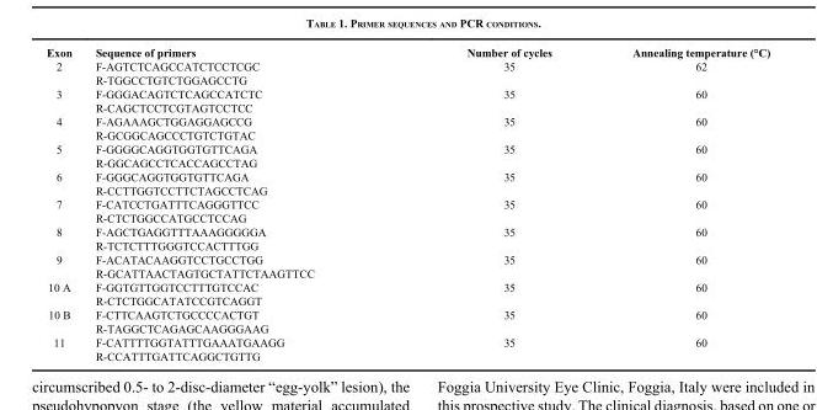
<table><thead><tr><td>Exon</td><td>Sequence of primers</td><td>Number of cycles</td><td>Annealing temperature (°C)</td></tr></thead><tbody><tr><td rowspan="2">2</td><td>F-AGTCTCAGCCATCTCCTCGC</td><td rowspan="2">35</td><td rowspan="2">62</td></tr><tr><td>R-TGGCCTGTCTGGAGCCTG</td></tr><tr><td rowspan="2">3</td><td>F-GGGACAGTCTCAGCCATCTC</td><td rowspan="2">35</td><td rowspan="2">60</td></tr><tr><td>R-CAGCTCCTCGTAGTCCTCC</td></tr><tr><td rowspan="2">4</td><td>F-AGAAAGCTGGAGGAGCCG</td><td rowspan="2">35</td><td rowspan="2">60</td></tr><tr><td>R-GCGGCAGCCCTGTCTGTAC</td></tr><tr><td rowspan="2">5</td><td>F-GGGGCAGGTGGTGTTCAGA</td><td rowspan="2">35</td><td rowspan="2">60</td></tr><tr><td>R-GGCAGCCTCACCAGCCTAG</td></tr><tr><td rowspan="2">6</td><td>F-GGGCAGGTGGTGTTCAGA</td><td rowspan="2">35</td><td rowspan="2">60</td></tr><tr><td>R-CCTTGGTCCTTCTAGCCTCAG</td></tr><tr><td rowspan="2">7</td><td>F-CATCCTGATTTCAGGGTTCC</td><td rowspan="2">35</td><td rowspan="2">60</td></tr><tr><td>R-CTCTGGCCATGCCTCCAG</td></tr><tr><td rowspan="2">8</td><td>F-AGCTGAGGTTTAAAGGGGGA</td><td rowspan="2">35</td><td rowspan="2">60</td></tr><tr><td>R-TCTCTTTGGGTCCACTTTGG</td></tr><tr><td rowspan="2">9</td><td>F-ACATACAAGGTCCTGCCTGG</td><td rowspan="2">35</td><td rowspan="2">60</td></tr><tr><td>R-GCATTAACTAGTGCTATTCTAAGTTCC</td></tr><tr><td rowspan="2">10 A</td><td>F-GGTGTTGGTCCTTTGTCCAC</td><td rowspan="2">35</td><td rowspan="2">60</td></tr><tr><td>R-CTCTGGCATATCCGTCAGGT</td></tr><tr><td rowspan="2">10 B</td><td>F-CTTCAAGTCTGCCCCACTGT</td><td rowspan="2">35</td><td rowspan="2">60</td></tr><tr><td>R-TAGGCTCAGAGCAAGGGAAG</td></tr><tr><td rowspan="2">11</td><td>F-CATTTTGGTATTTGAAATGAAGG</td><td rowspan="2">35</td><td rowspan="2">60</td></tr><tr><td>R-CCATTTGATTCAGGCTGTTG</td></tr></tbody></table>